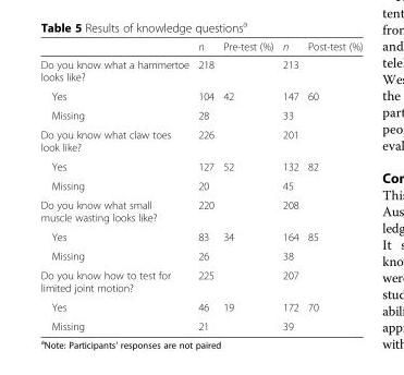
<table><thead><tr><td></td><td>n</td><td>Pre-test (%)</td><td>n</td><td>Post-test (%)</td></tr></thead><tbody><tr><td>Do you know what a hammertoe looks like?</td><td>218</td><td></td><td>213</td><td></td></tr><tr><td>Yes</td><td>104</td><td>42</td><td>147</td><td>60</td></tr><tr><td>Missing</td><td>28</td><td></td><td>33</td><td></td></tr><tr><td>Do you know what claw toes look like?</td><td>226</td><td></td><td>201</td><td></td></tr><tr><td>Yes</td><td>127</td><td>52</td><td>132</td><td>82</td></tr><tr><td>Missing</td><td>20</td><td></td><td>45</td><td></td></tr><tr><td>Do you know what small muscle wasting looks like?</td><td>220</td><td></td><td>208</td><td></td></tr><tr><td>Yes</td><td>83</td><td>34</td><td>164</td><td>85</td></tr><tr><td>Missing</td><td>26</td><td></td><td>38</td><td></td></tr><tr><td>Do you know how to test for limited joint motion?</td><td>225</td><td></td><td>207</td><td></td></tr><tr><td>Yes</td><td>46</td><td>19</td><td>172</td><td>70</td></tr><tr><td>Missing</td><td>21</td><td></td><td>39</td><td></td></tr></tbody></table>